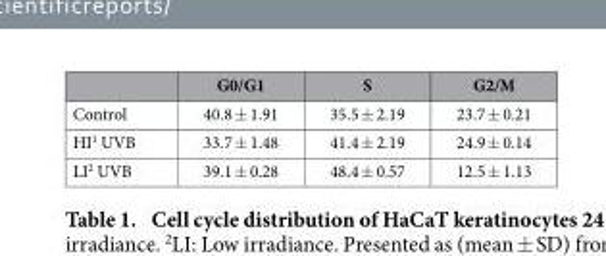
<table><thead><tr><td></td><td>G0/G1</td><td>S</td><td>G2/M</td></tr></thead><tbody><tr><td>Control</td><td>40.8 ± 1.91</td><td>35.5 ± 2.19</td><td>23.7 ± 0.21</td></tr><tr><td>HI<sup>1</sup> UVB</td><td>33.7 ± 1.48</td><td>41.4 ± 2.19</td><td>24.9 ± 0.14</td></tr><tr><td>LI<sup>2</sup> UVB</td><td>39.1 ± 0.28</td><td>48.4 ± 0.57</td><td>12.5 ± 1.13</td></tr></tbody></table>